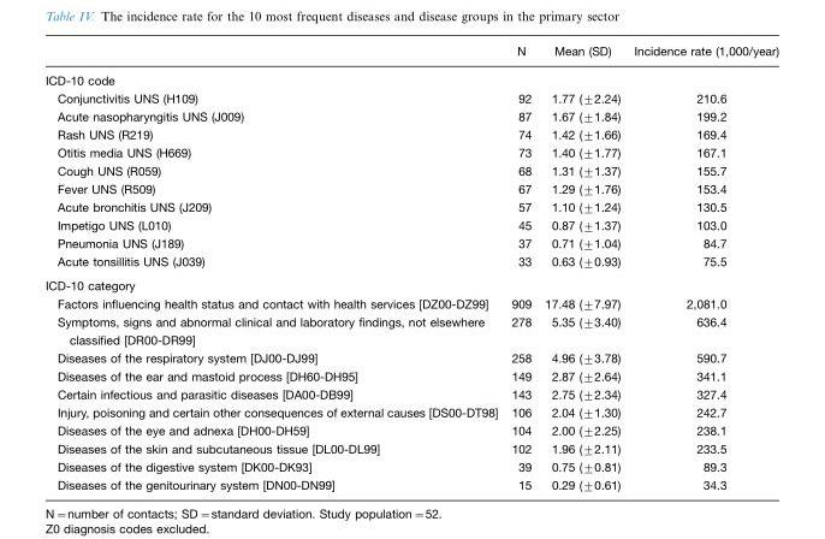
<table><thead><tr><td></td><td>N</td><td>Mean (SD)</td><td>Incidence rate (1,000/year)</td></tr></thead><tbody><tr><td colspan="4">ICD-10 code</td></tr><tr><td>Conjunctivitis UNS (H109)</td><td>92</td><td>1.77 (±2.24)</td><td>210.6</td></tr><tr><td>Acute nasopharyngitis UNS (J009)</td><td>87</td><td>1.67 (±1.84)</td><td>199.2</td></tr><tr><td>Rash UNS (R219)</td><td>74</td><td>1.42 (±1.66)</td><td>169.4</td></tr><tr><td>Otitis media UNS (H669)</td><td>73</td><td>1.40 (±1.77)</td><td>167.1</td></tr><tr><td>Cough UNS (R059)</td><td>68</td><td>1.31 (±1.37)</td><td>155.7</td></tr><tr><td>Fever UNS (R509)</td><td>67</td><td>1.29 (±1.76)</td><td>153.4</td></tr><tr><td>Acute bronchitis UNS (J209)</td><td>57</td><td>1.10 (±1.24)</td><td>130.5</td></tr><tr><td>Impetigo UNS (L010)</td><td>45</td><td>0.87 (±1.37)</td><td>103.0</td></tr><tr><td>Pneumonia UNS (J189)</td><td>37</td><td>0.71 (±1.04)</td><td>84.7</td></tr><tr><td>Acute tonsillitis UNS (J039)</td><td>33</td><td>0.63 (±0.93)</td><td>75.5</td></tr><tr><td colspan="4">ICD-10 category</td></tr><tr><td>Factors influencing health status and contact with health services [DZ00-DZ99]</td><td>909</td><td>17.48 (±7.97)</td><td>2,081.0</td></tr><tr><td>Symptoms, signs and abnormal clinical and laboratory findings, not elsewhere classified [DR00-DR99]</td><td>278</td><td>5.35 (±3.40)</td><td>636.4</td></tr><tr><td>Diseases of the respiratory system [DJ00-DJ99]</td><td>258</td><td>4.96 (±3.78)</td><td>590.7</td></tr><tr><td>Diseases of the ear and mastoid process [DH60-DH95]</td><td>149</td><td>2.87 (±2.64)</td><td>341.1</td></tr><tr><td>Certain infectious and parasitic diseases [DA00-DB99]</td><td>143</td><td>2.75 (±2.34)</td><td>327.4</td></tr><tr><td>Injury, poisoning and certain other consequences of external causes [DS00-DT98]</td><td>106</td><td>2.04 (±1.30)</td><td>242.7</td></tr><tr><td>Diseases of the eye and adnexa [DH00-DH59]</td><td>104</td><td>2.00 (±2.25)</td><td>238.1</td></tr><tr><td>Diseases of the skin and subcutaneous tissue [DL00-DL99]</td><td>102</td><td>1.96 (±2.11)</td><td>233.5</td></tr><tr><td>Diseases of the digestive system [DK00-DK93]</td><td>39</td><td>0.75 (±0.81)</td><td>89.3</td></tr><tr><td>Diseases of the genitourinary system [DN00-DN99]</td><td>15</td><td>0.29 (±0.61)</td><td>34.3</td></tr></tbody></table>